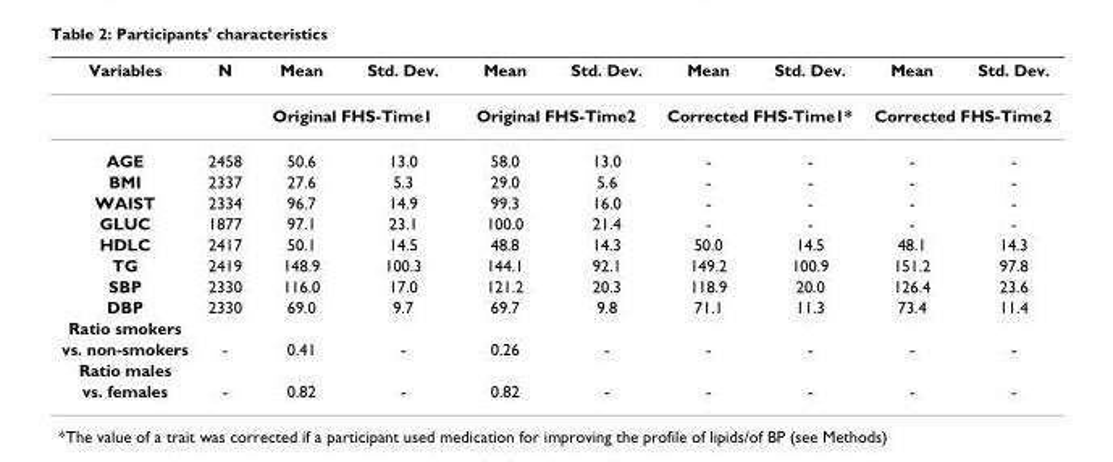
<table><thead><tr><td>Variables</td><td>N</td><td>Mean</td><td>Std. Dev.</td><td>Mean</td><td>Std. Dev.</td><td>Mean</td><td>Std. Dev.</td><td>Mean</td><td>Std. Dev.</td></tr></thead><tbody><tr><td></td><td></td><td colspan="2">Original FHS-Time1</td><td colspan="2">Original FHS-Time2</td><td colspan="2">Corrected FHS-Time1*</td><td colspan="2">Corrected FHS-Time2</td></tr><tr><td>AGE</td><td>2458</td><td>50.6</td><td>13.0</td><td>58.0</td><td>13.0</td><td>-</td><td>-</td><td>-</td><td>-</td></tr><tr><td>BMI</td><td>2337</td><td>27.6</td><td>5.3</td><td>29.0</td><td>5.6</td><td>-</td><td>-</td><td>-</td><td>-</td></tr><tr><td>WAIST</td><td>2334</td><td>96.7</td><td>14.9</td><td>99.3</td><td>16.0</td><td>-</td><td>-</td><td>-</td><td>-</td></tr><tr><td>GLUC</td><td>1877</td><td>97.1</td><td>23.1</td><td>100.0</td><td>21.4</td><td>-</td><td>-</td><td>-</td><td>-</td></tr><tr><td>HDLC</td><td>2417</td><td>50.1</td><td>14.5</td><td>48.8</td><td>14.3</td><td>50.0</td><td>14.5</td><td>48.1</td><td>14.3</td></tr><tr><td>TG</td><td>2419</td><td>148.9</td><td>100.3</td><td>144.1</td><td>92.1</td><td>149.2</td><td>100.9</td><td>151.2</td><td>97.8</td></tr><tr><td>SBP</td><td>2330</td><td>116.0</td><td>17.0</td><td>121.2</td><td>20.3</td><td>118.9</td><td>20.0</td><td>126.4</td><td>23.6</td></tr><tr><td>DBP</td><td>2330</td><td>69.0</td><td>9.7</td><td>69.7</td><td>9.8</td><td>71.1</td><td>11.3</td><td>73.4</td><td>11.4</td></tr><tr><td colspan="10">Ratio smokers</td></tr><tr><td>vs. non-smokers</td><td>-</td><td>0.41</td><td>-</td><td>0.26</td><td>-</td><td>-</td><td>-</td><td>-</td><td>-</td></tr><tr><td colspan="10">Ratio males</td></tr><tr><td>vs. females</td><td>-</td><td>0.82</td><td>-</td><td>0.82</td><td>-</td><td>-</td><td>-</td><td>-</td><td>-</td></tr></tbody></table>